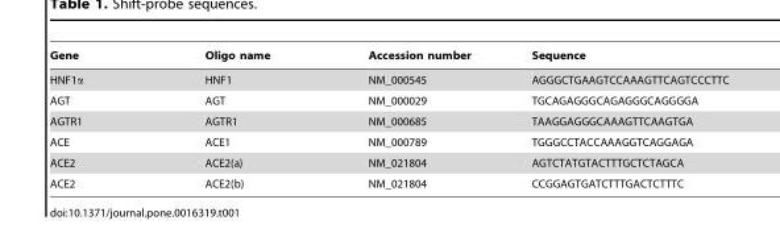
<table><thead><tr><td>Gene</td><td>Oligo name</td><td>Accession number</td><td>Sequence</td></tr></thead><tbody><tr><td>HNF1α</td><td>HNF1</td><td>NM_000545</td><td>AGGGCTGAAGTCCAAAGTTCAGTCCCTTC</td></tr><tr><td>AGT</td><td>AGT</td><td>NM_000029</td><td>TGCAGAGGGCAGAGGGCAGGGGA</td></tr><tr><td>AGTR1</td><td>AGTR1</td><td>NM_000685</td><td>TAAGGAGGGCAAAGTTCAAGTGA</td></tr><tr><td>ACE</td><td>ACE1</td><td>NM_000789</td><td>TGGGCCTACCAAAGGTCAGGAGA</td></tr><tr><td>ACE2</td><td>ACE2(a)</td><td>NM_021804</td><td>AGTCTATGTACTTTGCTCTAGCA</td></tr><tr><td>ACE2</td><td>ACE2(b)</td><td>NM_021804</td><td>CCGGAGTGATCTTTGACTCTTTC</td></tr></tbody></table>